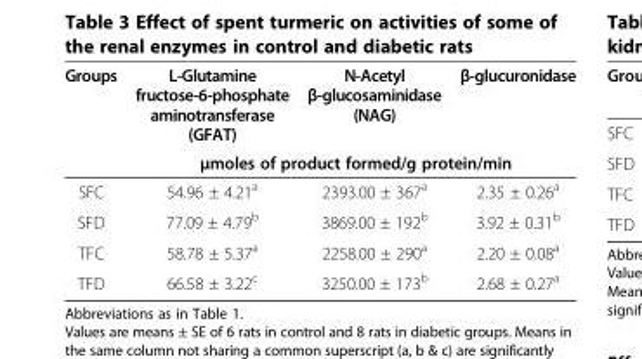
<table><thead><tr><td rowspan="2">Groups</td><td>L-Glutamine fructose-6-phosphate aminotransferase (GFAT)</td><td>N-Acetyl β-glucosaminidase (NAG)</td><td>β-glucuronidase</td></tr><tr><td colspan="3">μmoles of product formed/g protein/min</td></tr></thead><tbody><tr><td>SFC</td><td>54.96 ± 4.21<sup>a</sup></td><td>2393.00 ± 367<sup>a</sup></td><td>2.35 ± 0.26<sup>a</sup></td></tr><tr><td>SFD</td><td>77.09 ± 4.79<sup>b</sup></td><td>3869.00 ± 192<sup>b</sup></td><td>3.92 ± 0.31<sup>b</sup></td></tr><tr><td>TFC</td><td>58.78 ± 5.37<sup>a</sup></td><td>2258.00 ± 290<sup>a</sup></td><td>2.20 ± 0.08<sup>a</sup></td></tr><tr><td>TFD</td><td>66.58 ± 3.22<sup>c</sup></td><td>3250.00 ± 173<sup>b</sup></td><td>2.68 ± 0.27<sup>a</sup></td></tr></tbody></table>